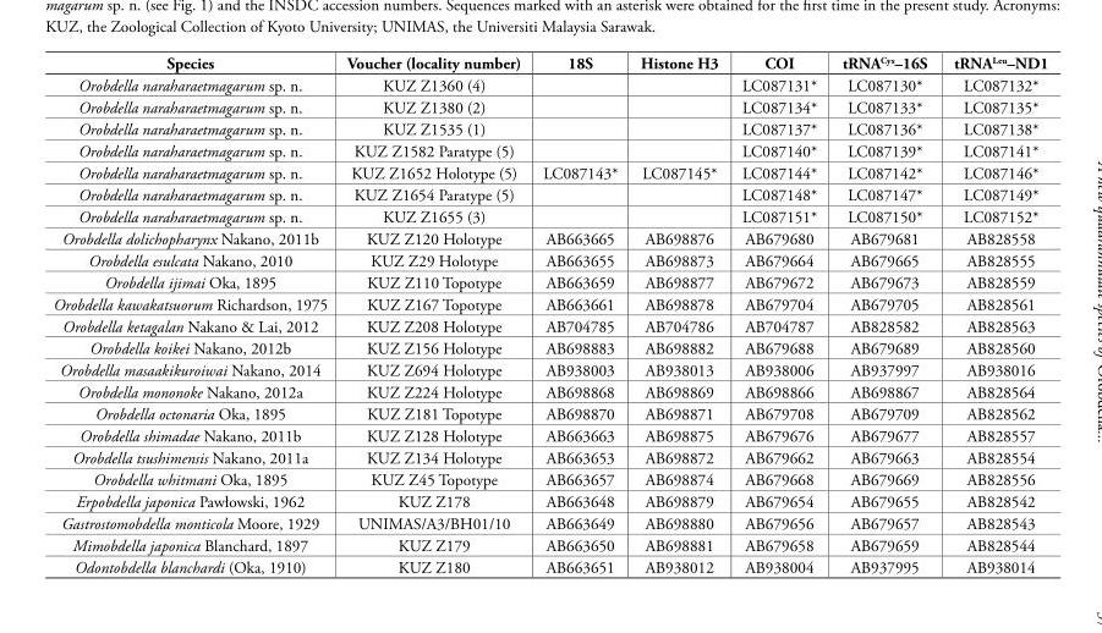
<table><thead><tr><td>Species</td><td>Voucher (locality number)</td><td>18S</td><td>Histone H3</td><td>COI</td><td>tRNA<sup>Cys</sup>–16S</td><td>tRNA<sup>Leu</sup>–ND1</td></tr></thead><tbody><tr><td>Orobdella naraharaetmagarum sp. n.</td><td>KUZ Z1360 (4)</td><td></td><td></td><td>LC087131*</td><td>LC087130*</td><td>LC087132*</td></tr><tr><td>Orobdella naraharaetmagarum sp. n.</td><td>KUZ Z1380 (2)</td><td></td><td></td><td>LC087134*</td><td>LC087133*</td><td>LC087135*</td></tr><tr><td>Orobdella naraharaetmagarum sp. n.</td><td>KUZ Z1535 (1)</td><td></td><td></td><td>LC087137*</td><td>LC087136*</td><td>LC087138*</td></tr><tr><td>Orobdella naraharaetmagarum sp. n.</td><td>KUZ Z1582 Paratype (5)</td><td></td><td></td><td>LC087140*</td><td>LC087139*</td><td>LC087141*</td></tr><tr><td>Orobdella naraharaetmagarum sp. n.</td><td>KUZ Z1652 Holotype (5)</td><td>LC087143*</td><td>LC087145*</td><td>LC087144*</td><td>LC087142*</td><td>LC087146*</td></tr><tr><td>Orobdella naraharaetmagarum sp. n.</td><td>KUZ Z1654 Paratype (5)</td><td></td><td></td><td>LC087148*</td><td>LC087147*</td><td>LC087149*</td></tr><tr><td>Orobdella naraharaetmagarum sp. n.</td><td>KUZ Z1655 (3)</td><td></td><td></td><td>LC087151*</td><td>LC087150*</td><td>LC087152*</td></tr><tr><td>Orobdella dolichopharynx Nakano, 2011b</td><td>KUZ Z120 Holotype</td><td>AB663665</td><td>AB698876</td><td>AB679680</td><td>AB679681</td><td>AB828558</td></tr><tr><td>Orobdella esulcata Nakano, 2010</td><td>KUZ Z29 Holotype</td><td>AB663655</td><td>AB698873</td><td>AB679664</td><td>AB679665</td><td>AB828555</td></tr><tr><td>Orobdella ijimai Oka, 1895</td><td>KUZ Z110 Topotype</td><td>AB663659</td><td>AB698877</td><td>AB679672</td><td>AB679673</td><td>AB828559</td></tr><tr><td>Orobdella kawakatsuorum Richardson, 1975</td><td>KUZ Z167 Topotype</td><td>AB663661</td><td>AB698878</td><td>AB679704</td><td>AB679705</td><td>AB828561</td></tr><tr><td>Orobdella ketagalan Nakano &amp; Lai, 2012</td><td>KUZ Z208 Holotype</td><td>AB704785</td><td>AB704786</td><td>AB704787</td><td>AB828582</td><td>AB828563</td></tr><tr><td>Orobdella koikei Nakano, 2012b</td><td>KUZ Z156 Holotype</td><td>AB698883</td><td>AB698882</td><td>AB679688</td><td>AB679689</td><td>AB828560</td></tr><tr><td>Orobdella masaakikuroiwai Nakano, 2014</td><td>KUZ Z694 Holotype</td><td>AB938003</td><td>AB938013</td><td>AB938006</td><td>AB937997</td><td>AB938016</td></tr><tr><td>Orobdella mononoke Nakano, 2012a</td><td>KUZ Z224 Holotype</td><td>AB698868</td><td>AB698869</td><td>AB698866</td><td>AB698867</td><td>AB828564</td></tr><tr><td>Orobdella octonaria Oka, 1895</td><td>KUZ Z181 Topotype</td><td>AB698870</td><td>AB698871</td><td>AB679708</td><td>AB679709</td><td>AB828562</td></tr><tr><td>Orobdella shimadae Nakano, 2011b</td><td>KUZ Z128 Holotype</td><td>AB663663</td><td>AB698875</td><td>AB679676</td><td>AB679677</td><td>AB828557</td></tr><tr><td>Orobdella tsushimensis Nakano, 2011a</td><td>KUZ Z134 Holotype</td><td>AB663653</td><td>AB698872</td><td>AB679662</td><td>AB679663</td><td>AB828554</td></tr><tr><td>Orobdella whitmani Oka, 1895</td><td>KUZ Z45 Topotype</td><td>AB663657</td><td>AB698874</td><td>AB679668</td><td>AB679669</td><td>AB828556</td></tr><tr><td>Erpobdella japonica Pawłowski, 1962</td><td>KUZ Z178</td><td>AB663648</td><td>AB698879</td><td>AB679654</td><td>AB679655</td><td>AB828542</td></tr><tr><td>Gastrostomobdella monticola Moore, 1929</td><td>UNIMAS/A3/BH01/10</td><td>AB663649</td><td>AB698880</td><td>AB679656</td><td>AB679657</td><td>AB828543</td></tr><tr><td>Mimobdella japonica Blanchard, 1897</td><td>KUZ Z179</td><td>AB663650</td><td>AB698881</td><td>AB679658</td><td>AB679659</td><td>AB828544</td></tr><tr><td>Odontobdella blanchardi (Oka, 1910)</td><td>KUZ Z180</td><td>AB663651</td><td>AB938012</td><td>AB938004</td><td>AB937995</td><td>AB938014</td></tr></tbody></table>